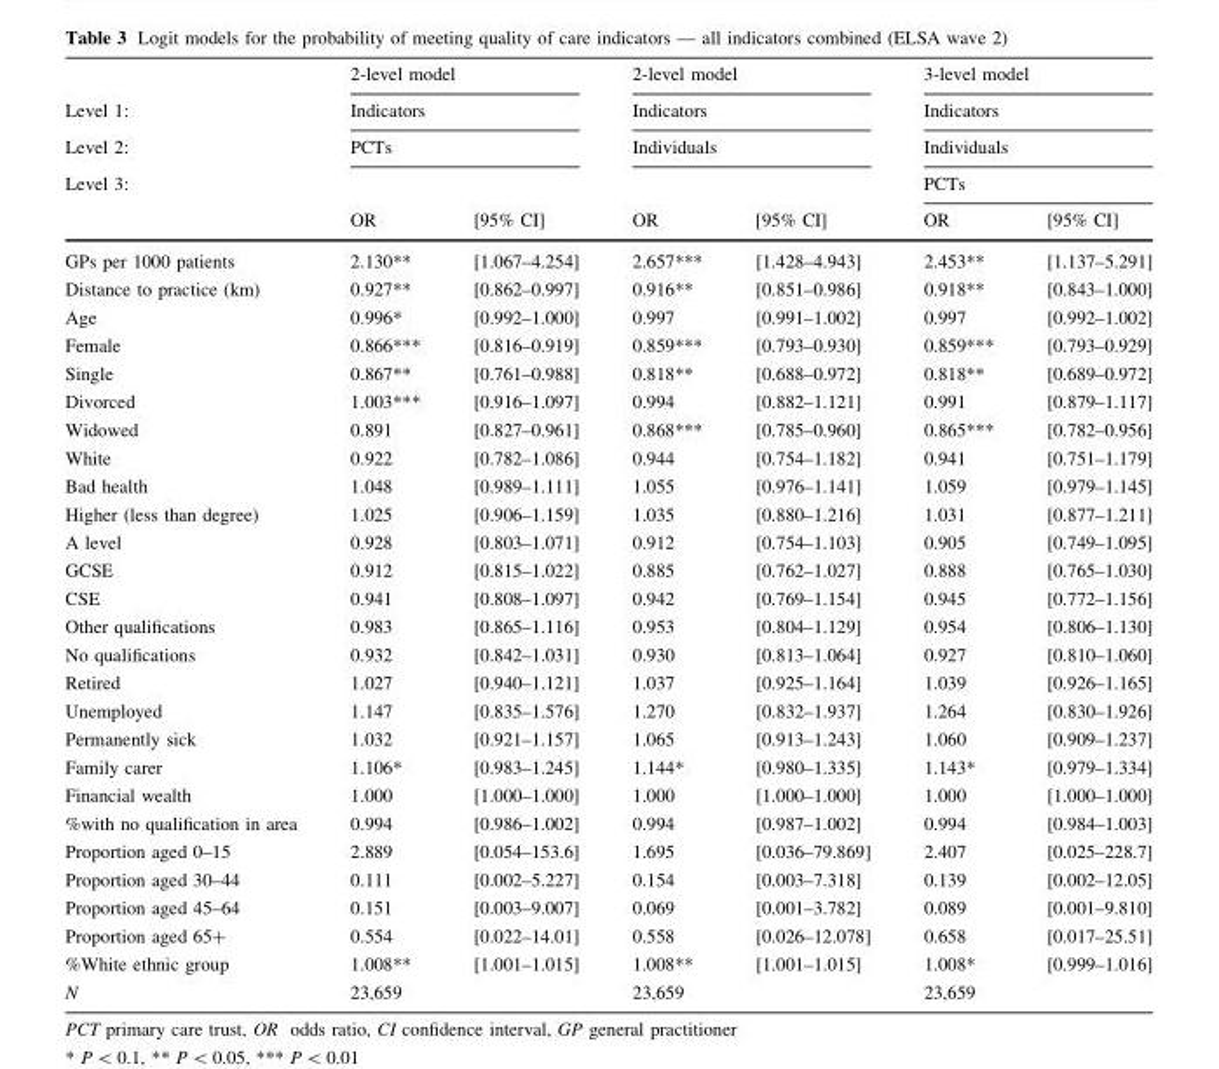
<table><thead><tr><td rowspan="5">Level 1: Level 2: Level 3:</td><td rowspan="3" colspan="2">2-level model Indicators PCTs</td><td rowspan="3" colspan="2">2-level model Indicators Individuals</td><td rowspan="4" colspan="2">3-level model Indicators Individuals PCTs</td></tr><tr></tr><tr></tr><tr><td rowspan="2">OR</td><td rowspan="2">[95% CI]</td><td rowspan="2">OR</td><td rowspan="2">[95% CI]</td></tr><tr><td>OR</td><td>[95% CI]</td></tr></thead><tbody><tr><td>GPs per 1000 patients</td><td>2.130**</td><td>[1.067–4.254]</td><td>2.657***</td><td>[1.428–4.943]</td><td>2.453**</td><td>[1.137–5.291]</td></tr><tr><td>Distance to practice (km)</td><td>0.927**</td><td>[0.862–0.997]</td><td>0.916**</td><td>[0.851–0.986]</td><td>0.918**</td><td>[0.843–1.000]</td></tr><tr><td>Age</td><td>0.996*</td><td>[0.992–1.000]</td><td>0.997</td><td>[0.991–1.002]</td><td>0.997</td><td>[0.992–1.002]</td></tr><tr><td>Female</td><td>0.866***</td><td>[0.816–0.919]</td><td>0.859***</td><td>[0.793–0.930]</td><td>0.859***</td><td>[0.793–0.929]</td></tr><tr><td>Single</td><td>0.867**</td><td>[0.761–0.988]</td><td>0.818**</td><td>[0.688–0.972]</td><td>0.818**</td><td>[0.689–0.972]</td></tr><tr><td>Divorced</td><td>1.003***</td><td>[0.916–1.097]</td><td>0.994</td><td>[0.882–1.121]</td><td>0.991</td><td>[0.879–1.117]</td></tr><tr><td>Widowed</td><td>0.891</td><td>[0.827–0.961]</td><td>0.868***</td><td>[0.785–0.960]</td><td>0.865***</td><td>[0.782–0.956]</td></tr><tr><td>White</td><td>0.922</td><td>[0.782–1.086]</td><td>0.944</td><td>[0.754–1.182]</td><td>0.941</td><td>[0.751–1.179]</td></tr><tr><td>Bad health</td><td>1.048</td><td>[0.989–1.111]</td><td>1.055</td><td>[0.976–1.141]</td><td>1.059</td><td>[0.979–1.145]</td></tr><tr><td>Higher (less than degree)</td><td>1.025</td><td>[0.906–1.159]</td><td>1.035</td><td>[0.880–1.216]</td><td>1.031</td><td>[0.877–1.211]</td></tr><tr><td>A level</td><td>0.928</td><td>[0.803–1.071]</td><td>0.912</td><td>[0.754–1.103]</td><td>0.905</td><td>[0.749–1.095]</td></tr><tr><td>GCSE</td><td>0.912</td><td>[0.815–1.022]</td><td>0.885</td><td>[0.762–1.027]</td><td>0.888</td><td>[0.765–1.030]</td></tr><tr><td>CSE</td><td>0.941</td><td>[0.808–1.097]</td><td>0.942</td><td>[0.769–1.154]</td><td>0.945</td><td>[0.772–1.156]</td></tr><tr><td>Other qualifications</td><td>0.983</td><td>[0.865–1.116]</td><td>0.953</td><td>[0.804–1.129]</td><td>0.954</td><td>[0.806–1.130]</td></tr><tr><td>No qualifications</td><td>0.932</td><td>[0.842–1.031]</td><td>0.930</td><td>[0.813–1.064]</td><td>0.927</td><td>[0.810–1.060]</td></tr><tr><td>Retired</td><td>1.027</td><td>[0.940–1.121]</td><td>1.037</td><td>[0.925–1.164]</td><td>1.039</td><td>[0.926–1.165]</td></tr><tr><td>Unemployed</td><td>1.147</td><td>[0.835–1.576]</td><td>1.270</td><td>[0.832–1.937]</td><td>1.264</td><td>[0.830–1.926]</td></tr><tr><td>Permanently sick</td><td>1.032</td><td>[0.921–1.157]</td><td>1.065</td><td>[0.913–1.243]</td><td>1.060</td><td>[0.909–1.237]</td></tr><tr><td>Family carer</td><td>1.106*</td><td>[0.983–1.245]</td><td>1.144*</td><td>[0.980–1.335]</td><td>1.143*</td><td>[0.979–1.334]</td></tr><tr><td>Financial wealth</td><td>1.000</td><td>[1.000–1.000]</td><td>1.000</td><td>[1.000–1.000]</td><td>1.000</td><td>[1.000–1.000]</td></tr><tr><td>%with no qualification in area</td><td>0.994</td><td>[0.986–1.002]</td><td>0.994</td><td>[0.987–1.002]</td><td>0.994</td><td>[0.984–1.003]</td></tr><tr><td>Proportion aged 0–15</td><td>2.889</td><td>[0.054–153.6]</td><td>1.695</td><td>[0.036–79.869]</td><td>2.407</td><td>[0.025–228.7]</td></tr><tr><td>Proportion aged 30–44</td><td>0.111</td><td>[0.002–5.227]</td><td>0.154</td><td>[0.003–7.318]</td><td>0.139</td><td>[0.002–12.05]</td></tr><tr><td>Proportion aged 45–64</td><td>0.151</td><td>[0.003–9.007]</td><td>0.069</td><td>[0.001–3.782]</td><td>0.089</td><td>[0.001–9.810]</td></tr><tr><td>Proportion aged 65+</td><td>0.554</td><td>[0.022–14.01]</td><td>0.558</td><td>[0.026–12.078]</td><td>0.658</td><td>[0.017–25.51]</td></tr><tr><td>%White ethnic group</td><td>1.008**</td><td>[1.001–1.015]</td><td>1.008**</td><td>[1.001–1.015]</td><td>1.008*</td><td>[0.999–1.016]</td></tr><tr><td>N</td><td>23,659</td><td></td><td>23,659</td><td></td><td>23,659</td><td></td></tr></tbody></table>